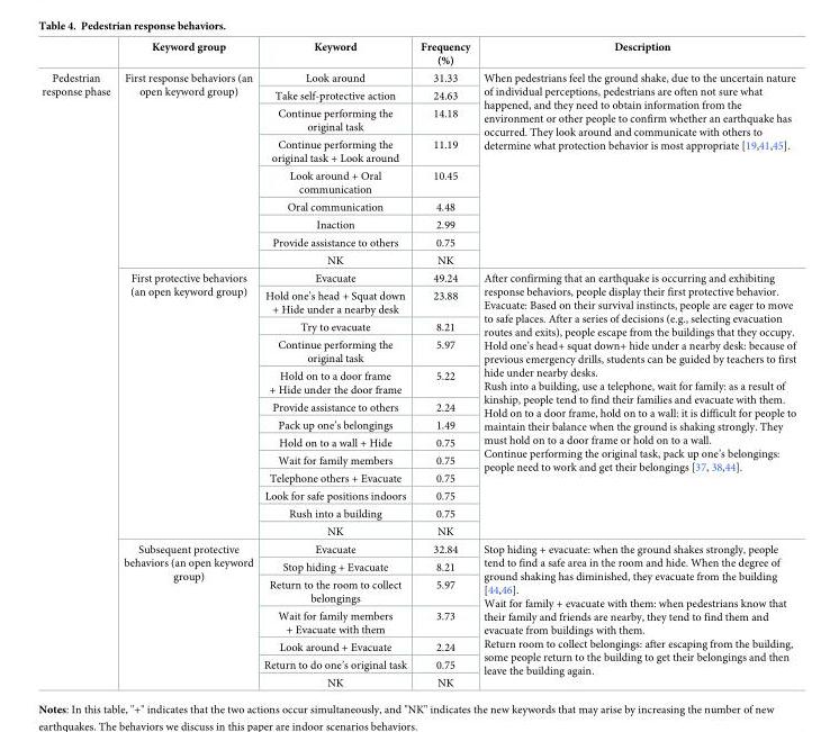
<table><thead><tr><td></td><td>Keyword group</td><td>Keyword</td><td>Frequency (%)</td><td>Description</td></tr></thead><tbody><tr><td rowspan="29">Pedestrian response phase</td><td rowspan="9">First response behaviors (an open keyword group)</td><td>Look around</td><td>31.33</td><td rowspan="9">When pedestrians feel the ground shake, due to the uncertain nature of individual perceptions, pedestrians are often not sure what happened, and they need to obtain information from the environment or other people to confirm whether an earthquake has occurred. They look around and communicate with others to determine what protection behavior is most appropriate [19,41,45].</td></tr><tr><td>Take self-protective action</td><td>24.63</td></tr><tr><td>Continue performing the original task</td><td>14.18</td></tr><tr><td>Continue performing the original task + Look around</td><td>11.19</td></tr><tr><td>Look around + Oral communication</td><td>10.45</td></tr><tr><td>Oral communication</td><td>4.48</td></tr><tr><td>Inaction</td><td>2.99</td></tr><tr><td>Provide assistance to others</td><td>0.75</td></tr><tr><td>NK</td><td>NK</td></tr><tr><td rowspan="13">First protective behaviors (an open keyword group)</td><td>Evacuate</td><td>49.24</td><td rowspan="13">After confirming that an earthquake is occurring and exhibiting response behaviors, people display their first protective behavior. Evacuate: Based on their survival instincts, people are eager to move to safe places. After a series of decisions (e.g., selecting evacuation routes and exits), people escape from the buildings that they occupy. Hold one’s head+ squat down+ hide under a nearby desk: because of previous emergency drills, students can be guided by teachers to first hide under nearby desks. Rush into a building, use a telephone, wait for family: as a result of kinship, people tend to find their families and evacuate with them. Hold on to a door frame, hold on to a wall: it is difficult for people to maintain their balance when the ground is shaking strongly. They must hold on to a door frame or hold on to a wall. Continue performing the original task, pack up one’s belongings: people need to work and get their belongings [37, 38,44].</td></tr><tr><td>Hold one’s head + Squat down + Hide under a nearby desk</td><td>23.88</td></tr><tr><td>Try to evacuate</td><td>8.21</td></tr><tr><td>Continue performing the original task</td><td>5.97</td></tr><tr><td>Hold on to a door frame + Hide under the door frame</td><td>5.22</td></tr><tr><td>Provide assistance to others</td><td>2.24</td></tr><tr><td>Pack up one’s belongings</td><td>1.49</td></tr><tr><td>Hold on to a wall + Hide</td><td>0.75</td></tr><tr><td>Wait for family members</td><td>0.75</td></tr><tr><td>Telephone others + Evacuate</td><td>0.75</td></tr><tr><td>Look for safe positions indoors</td><td>0.75</td></tr><tr><td>Rush into a building</td><td>0.75</td></tr><tr><td>NK</td><td>NK</td></tr><tr><td rowspan="7">Subsequent protective behaviors (an open keyword group)</td><td>Evacuate</td><td>32.84</td><td rowspan="7">Stop hiding + evacuate: when the ground shakes strongly, people tend to find a safe area in the room and hide. When the degree of ground shaking has diminished, they evacuate from the building [44,46]. Wait for family + evacuate with them: when pedestrians know that their family and friends are nearby, they tend to find them and evacuate from buildings with them. Return room to collect belongings: after escaping from the building, some people return to the building to get their belongings and then leave the building again.</td></tr><tr><td>Stop hiding + Evacuate</td><td>8.21</td></tr><tr><td>Return to the room to collect belongings</td><td>5.97</td></tr><tr><td>Wait for family members + Evacuate with them</td><td>3.73</td></tr><tr><td>Look around + Evacuate</td><td>2.24</td></tr><tr><td>Return to do one’s original task</td><td>0.75</td></tr><tr><td>NK</td><td>NK</td></tr></tbody></table>